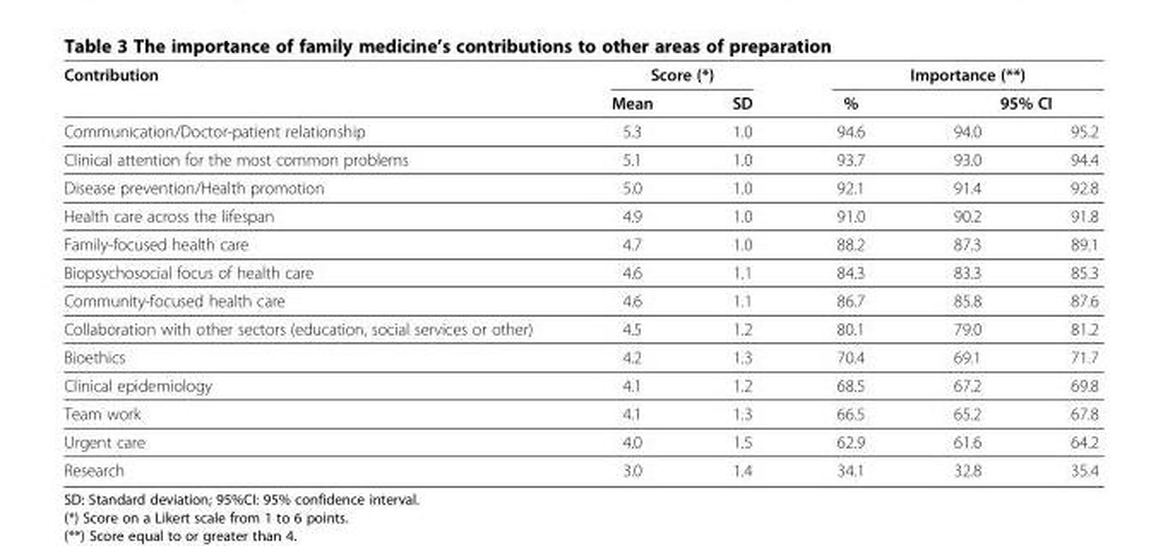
<table><thead><tr><td rowspan="3">Contribution Communication/Doctor-patient relationship</td><td colspan="2">Score (*)</td><td colspan="3">Importance (**)</td></tr><tr><td rowspan="2">Mean 5.3</td><td rowspan="2">SD 1.0</td><td rowspan="2">% 94.6</td><td colspan="2">95% CI</td></tr><tr><td>94.0</td><td>95.2</td></tr></thead><tbody><tr><td>Clinical attention for the most common problems</td><td>5.1</td><td>1.0</td><td>93.7</td><td>93.0</td><td>94.4</td></tr><tr><td>Disease prevention/Health promotion</td><td>5.0</td><td>1.0</td><td>92.1</td><td>91.4</td><td>92.8</td></tr><tr><td>Health care across the lifespan</td><td>4.9</td><td>1.0</td><td>91.0</td><td>90.2</td><td>91.8</td></tr><tr><td>Family-focused health care</td><td>4.7</td><td>1.0</td><td>88.2</td><td>87.3</td><td>89.1</td></tr><tr><td>Biopsychosocial focus of health care</td><td>4.6</td><td>1.1</td><td>84.3</td><td>83.3</td><td>85.3</td></tr><tr><td>Community-focused health care</td><td>4.6</td><td>1.1</td><td>86.7</td><td>85.8</td><td>87.6</td></tr><tr><td>Collaboration with other sectors (education, social services or other)</td><td>4.5</td><td>1.2</td><td>80.1</td><td>79.0</td><td>81.2</td></tr><tr><td>Bioethics</td><td>4.2</td><td>1.3</td><td>70.4</td><td>69.1</td><td>71.7</td></tr><tr><td>Clinical epidemiology</td><td>4.1</td><td>1.2</td><td>68.5</td><td>67.2</td><td>69.8</td></tr><tr><td>Team work</td><td>4.1</td><td>1.3</td><td>66.5</td><td>65.2</td><td>67.8</td></tr><tr><td>Urgent care</td><td>4.0</td><td>1.5</td><td>62.9</td><td>61.6</td><td>64.2</td></tr><tr><td>Research</td><td>3.0</td><td>1.4</td><td>34.1</td><td>32.8</td><td>35.4</td></tr></tbody></table>